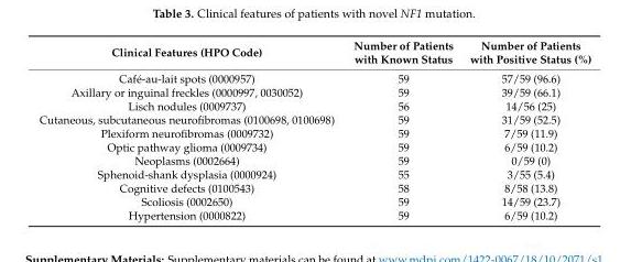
<table><thead><tr><td>Clinical Features (HPO Code)</td><td>Number of Patients with Known Status</td><td>Number of Patients with Positive Status (%)</td></tr></thead><tbody><tr><td>Café-au-lait spots (0000957)</td><td>59</td><td>57/59 (96.6)</td></tr><tr><td>Axillary or inguinal freckles (0000997, 0030052)</td><td>59</td><td>39/59 (66.1)</td></tr><tr><td>Lisch nodules (0009737)</td><td>56</td><td>14/56 (25)</td></tr><tr><td>Cutaneous, subcutaneous neurofibromas (0100698, 0100698)</td><td>59</td><td>31/59 (52.5)</td></tr><tr><td>Plexiform neurofibromas (0009732)</td><td>59</td><td>7/59 (11.9)</td></tr><tr><td>Optic pathway glioma (0009734)</td><td>59</td><td>6/59 (10.2)</td></tr><tr><td>Neoplasms (0002664)</td><td>59</td><td>0/59 (0)</td></tr><tr><td>Sphenoid-shank dysplasia (0000924)</td><td>55</td><td>3/55 (5.4)</td></tr><tr><td>Cognitive defects (0100543)</td><td>58</td><td>8/58 (13.8)</td></tr><tr><td>Scoliosis (0002650)</td><td>59</td><td>14/59 (23.7)</td></tr><tr><td>Hypertension (0000822)</td><td>59</td><td>6/59 (10.2)</td></tr></tbody></table>